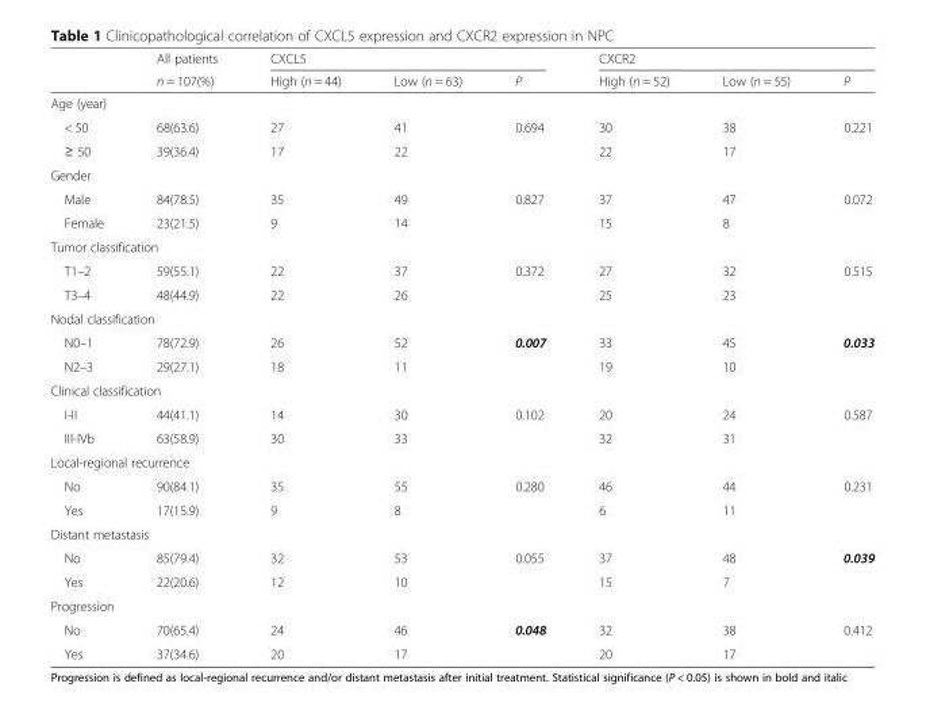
<table><thead><tr><td rowspan="2"></td><td rowspan="2">All patients n = 107(%)</td><td colspan="3">CXCL5</td><td colspan="3">CXCR2</td></tr><tr><td>High (n = 44)</td><td>Low (n = 63)</td><td>P</td><td>High (n = 52)</td><td>Low (n = 55)</td><td>P</td></tr></thead><tbody><tr><td colspan="8">Age (year)</td></tr><tr><td>&lt; 50</td><td>68(63.6)</td><td>27</td><td>41</td><td rowspan="2">0.694</td><td>30</td><td>38</td><td rowspan="2">0.221</td></tr><tr><td>≥ 50</td><td>39(36.4)</td><td>17</td><td>22</td><td>22</td><td>17</td></tr><tr><td colspan="8">Gender</td></tr><tr><td>Male</td><td>84(78.5)</td><td>35</td><td>49</td><td rowspan="2">0.827</td><td>37</td><td>47</td><td rowspan="2">0.072</td></tr><tr><td>Female</td><td>23(21.5)</td><td>9</td><td>14</td><td>15</td><td>8</td></tr><tr><td colspan="8">Tumor classification</td></tr><tr><td>T1–2</td><td>59(55.1)</td><td>22</td><td>37</td><td rowspan="2">0.372</td><td>27</td><td>32</td><td rowspan="2">0.515</td></tr><tr><td>T3–4</td><td>48(44.9)</td><td>22</td><td>26</td><td>25</td><td>23</td></tr><tr><td colspan="8">Nodal classification</td></tr><tr><td>N0–1</td><td>78(72.9)</td><td>26</td><td>52</td><td rowspan="2">0.007</td><td>33</td><td>45</td><td rowspan="2">0.033</td></tr><tr><td>N2–3</td><td>29(27.1)</td><td>18</td><td>11</td><td>19</td><td>10</td></tr><tr><td colspan="8">Clinical classification</td></tr><tr><td>I-II</td><td>44(41.1)</td><td>14</td><td>30</td><td rowspan="2">0.102</td><td>20</td><td>24</td><td rowspan="2">0.587</td></tr><tr><td>III-IVb</td><td>63(58.9)</td><td>30</td><td>33</td><td>32</td><td>31</td></tr><tr><td colspan="8">Local-regional recurrence</td></tr><tr><td>No</td><td>90(84.1)</td><td>35</td><td>55</td><td rowspan="2">0.280</td><td>46</td><td>44</td><td rowspan="2">0.231</td></tr><tr><td>Yes</td><td>17(15.9)</td><td>9</td><td>8</td><td>6</td><td>11</td></tr><tr><td colspan="8">Distant metastasis</td></tr><tr><td>No</td><td>85(79.4)</td><td>32</td><td>53</td><td rowspan="2">0.055</td><td>37</td><td>48</td><td rowspan="2">0.039</td></tr><tr><td>Yes</td><td>22(20.6)</td><td>12</td><td>10</td><td>15</td><td>7</td></tr><tr><td colspan="8">Progression</td></tr><tr><td>No</td><td>70(65.4)</td><td>24</td><td>46</td><td rowspan="2">0.048</td><td>32</td><td>38</td><td rowspan="2">0.412</td></tr><tr><td>Yes</td><td>37(34.6)</td><td>20</td><td>17</td><td>20</td><td>17</td></tr></tbody></table>